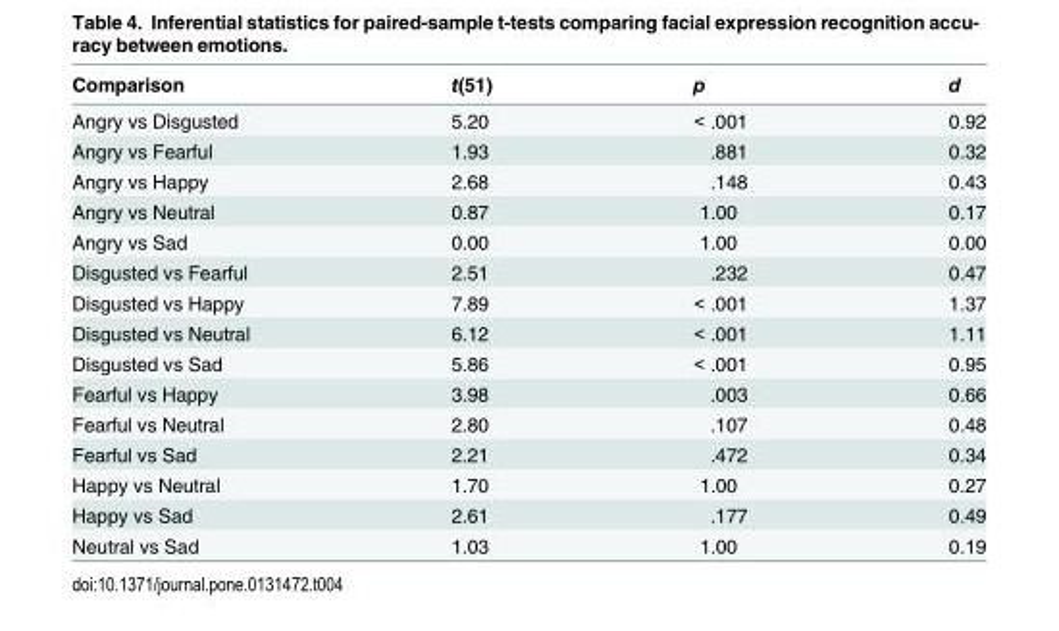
<table><thead><tr><td>Comparison</td><td>t(51)</td><td>p</td><td>d</td></tr></thead><tbody><tr><td>Angry vs Disgusted</td><td>5.20</td><td>&lt; .001</td><td>0.92</td></tr><tr><td>Angry vs Fearful</td><td>1.93</td><td>.881</td><td>0.32</td></tr><tr><td>Angry vs Happy</td><td>2.68</td><td>.148</td><td>0.43</td></tr><tr><td>Angry vs Neutral</td><td>0.87</td><td>1.00</td><td>0.17</td></tr><tr><td>Angry vs Sad</td><td>0.00</td><td>1.00</td><td>0.00</td></tr><tr><td>Disgusted vs Fearful</td><td>2.51</td><td>.232</td><td>0.47</td></tr><tr><td>Disgusted vs Happy</td><td>7.89</td><td>&lt; .001</td><td>1.37</td></tr><tr><td>Disgusted vs Neutral</td><td>6.12</td><td>&lt; .001</td><td>1.11</td></tr><tr><td>Disgusted vs Sad</td><td>5.86</td><td>&lt; .001</td><td>0.95</td></tr><tr><td>Fearful vs Happy</td><td>3.98</td><td>.003</td><td>0.66</td></tr><tr><td>Fearful vs Neutral</td><td>2.80</td><td>.107</td><td>0.48</td></tr><tr><td>Fearful vs Sad</td><td>2.21</td><td>.472</td><td>0.34</td></tr><tr><td>Happy vs Neutral</td><td>1.70</td><td>1.00</td><td>0.27</td></tr><tr><td>Happy vs Sad</td><td>2.61</td><td>.177</td><td>0.49</td></tr><tr><td>Neutral vs Sad</td><td>1.03</td><td>1.00</td><td>0.19</td></tr></tbody></table>